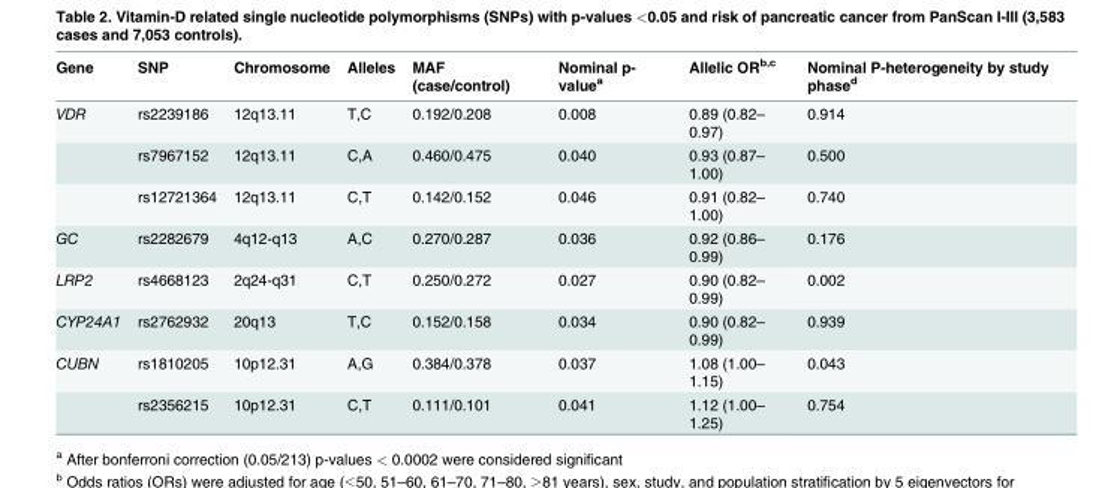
<table><thead><tr><td>Gene</td><td>SNP</td><td>Chromosome</td><td>Alleles</td><td>MAF (case/control)</td><td>Nominal p- value<sup>a</sup></td><td>Allelic OR<sup>b,c</sup></td><td>Nominal P-heterogeneity by study phase<sup>d</sup></td></tr></thead><tbody><tr><td rowspan="3">VDR</td><td>rs2239186</td><td>12q13.11</td><td>T,C</td><td>0.192/0.208</td><td>0.008</td><td>0.89 (0.82– 0.97)</td><td>0.914</td></tr><tr><td>rs7967152</td><td>12q13.11</td><td>C,A</td><td>0.460/0.475</td><td>0.040</td><td>0.93 (0.87– 1.00)</td><td>0.500</td></tr><tr><td>rs12721364</td><td>12q13.11</td><td>C,T</td><td>0.142/0.152</td><td>0.046</td><td>0.91 (0.82– 1.00)</td><td>0.740</td></tr><tr><td>GC</td><td>rs2282679</td><td>4q12-q13</td><td>A,C</td><td>0.270/0.287</td><td>0.036</td><td>0.92 (0.86– 0.99)</td><td>0.176</td></tr><tr><td>LRP2</td><td>rs4668123</td><td>2q24-q31</td><td>C,T</td><td>0.250/0.272</td><td>0.027</td><td>0.90 (0.82– 0.99)</td><td>0.002</td></tr><tr><td>CYP24A1</td><td>rs2762932</td><td>20q13</td><td>T,C</td><td>0.152/0.158</td><td>0.034</td><td>0.90 (0.82– 0.99)</td><td>0.939</td></tr><tr><td rowspan="2">CUBN</td><td>rs1810205</td><td>10p12.31</td><td>A,G</td><td>0.384/0.378</td><td>0.037</td><td>1.08 (1.00– 1.15)</td><td>0.043</td></tr><tr><td>rs2356215</td><td>10p12.31</td><td>C,T</td><td>0.111/0.101</td><td>0.041</td><td>1.12 (1.00– 1.25)</td><td>0.754</td></tr></tbody></table>